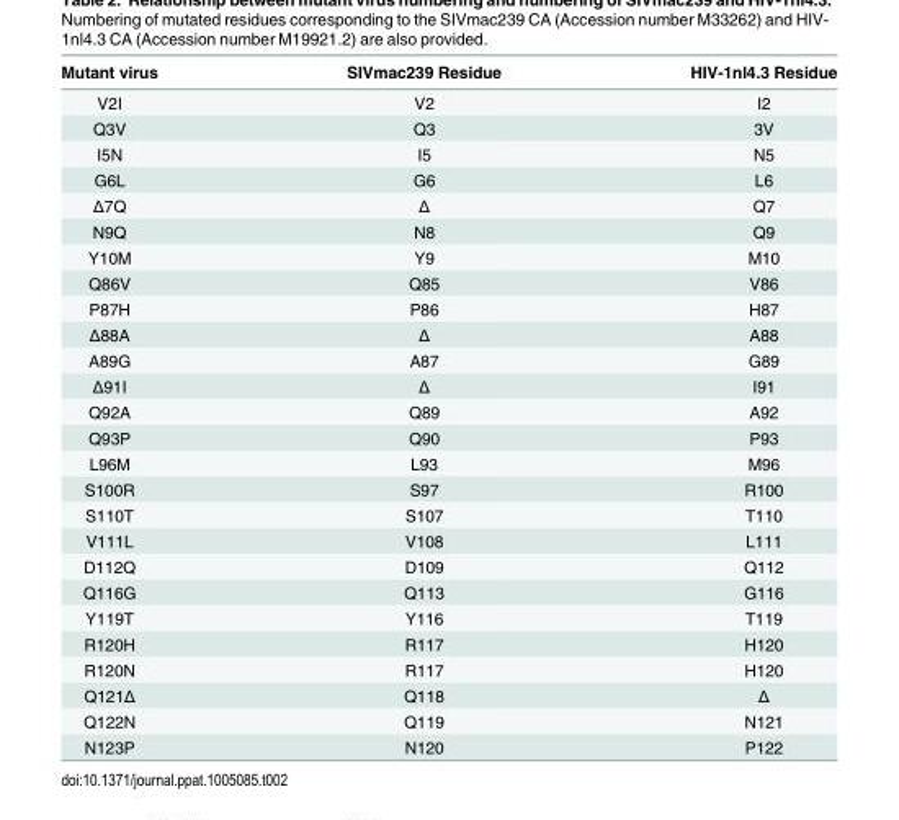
<table><thead><tr><td>Mutant virus</td><td>SIVmac239 Residue</td><td>HIV-1nl4.3 Residue</td></tr></thead><tbody><tr><td>V2I</td><td>V2</td><td>I2</td></tr><tr><td>Q3V</td><td>Q3</td><td>3V</td></tr><tr><td>I5N</td><td>I5</td><td>N5</td></tr><tr><td>G6L</td><td>G6</td><td>L6</td></tr><tr><td>Δ7Q</td><td>Δ</td><td>Q7</td></tr><tr><td>N9Q</td><td>N8</td><td>Q9</td></tr><tr><td>Y10M</td><td>Y9</td><td>M10</td></tr><tr><td>Q86V</td><td>Q85</td><td>V86</td></tr><tr><td>P87H</td><td>P86</td><td>H87</td></tr><tr><td>Δ88A</td><td>Δ</td><td>A88</td></tr><tr><td>A89G</td><td>A87</td><td>G89</td></tr><tr><td>Δ91I</td><td>Δ</td><td>I91</td></tr><tr><td>Q92A</td><td>Q89</td><td>A92</td></tr><tr><td>Q93P</td><td>Q90</td><td>P93</td></tr><tr><td>L96M</td><td>L93</td><td>M96</td></tr><tr><td>S100R</td><td>S97</td><td>R100</td></tr><tr><td>S110T</td><td>S107</td><td>T110</td></tr><tr><td>V111L</td><td>V108</td><td>L111</td></tr><tr><td>D112Q</td><td>D109</td><td>Q112</td></tr><tr><td>Q116G</td><td>Q113</td><td>G116</td></tr><tr><td>Y119T</td><td>Y116</td><td>T119</td></tr><tr><td>R120H</td><td>R117</td><td>H120</td></tr><tr><td>R120N</td><td>R117</td><td>H120</td></tr><tr><td>Q121Δ</td><td>Q118</td><td>Δ</td></tr><tr><td>Q122N</td><td>Q119</td><td>N121</td></tr><tr><td>N123P</td><td>N120</td><td>P122</td></tr></tbody></table>